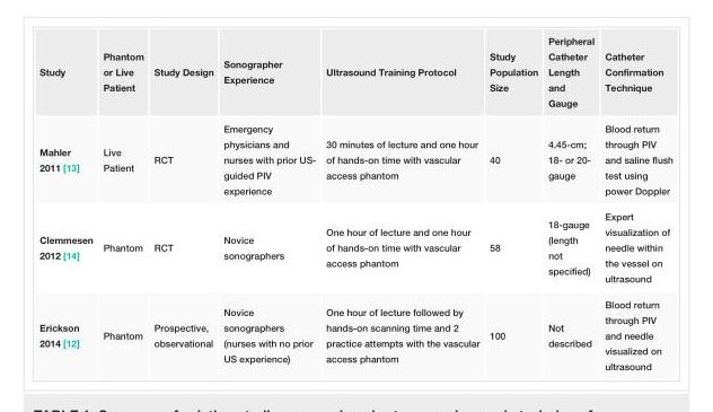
<table><tbody><tr><td>Study</td><td>Phantom or Live Patient</td><td>Study Design</td><td>Sonographer Experience</td><td>Ultrasound Training Protocol</td><td>Study Population Size</td><td>Peripheral Catheter Length and Gauge</td><td>Catheter Confirmation Technique</td></tr><tr><td>Mahler 2011 [13]</td><td>Live Patient</td><td>RCT</td><td>Emergency physicians and nurses with prior US- guided PIV experience</td><td>30 minutes of lecture and one hour of hands-on time with vascular access phantom</td><td>40</td><td>4.45-cm; 18- or 20- gauge</td><td>Blood return through PIV and saline flush test using power Doppler</td></tr><tr><td>Clemmesen 2012 [14]</td><td>Phantom</td><td>RCT</td><td>Novice sonographers</td><td>One hour of lecture and one hour of hands-on time with vascular access phantom</td><td>58</td><td>18-gauge (length not specified)</td><td>Expert visualization of needle within the vessel on ultrasound</td></tr><tr><td>Erickson 2014 [12]</td><td>Phantom</td><td>Prospective, observational</td><td>Novice sonographers (nurses with no prior US experience)</td><td>One hour of lecture followed by hands-on scanning time and 2 practice attempts with the vascular access phantom</td><td>100</td><td>Not described</td><td>Blood return through PIV and needle visualized on ultrasound</td></tr></tbody></table>